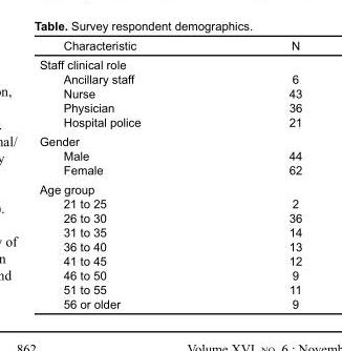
<table><thead><tr><td>Characteristic</td><td>N</td></tr></thead><tbody><tr><td colspan="2">Staff clinical role</td></tr><tr><td>Ancillary staff</td><td>6</td></tr><tr><td>Nurse</td><td>43</td></tr><tr><td>Physician</td><td>36</td></tr><tr><td>Hospital police</td><td>21</td></tr><tr><td colspan="2">Gender</td></tr><tr><td>Male</td><td>44</td></tr><tr><td>Female</td><td>62</td></tr><tr><td colspan="2">Age group</td></tr><tr><td>21 to 25</td><td>2</td></tr><tr><td>26 to 30</td><td>36</td></tr><tr><td>31 to 35</td><td>14</td></tr><tr><td>36 to 40</td><td>13</td></tr><tr><td>41 to 45</td><td>12</td></tr><tr><td>46 to 50</td><td>9</td></tr><tr><td>51 to 55</td><td>11</td></tr><tr><td>56 or older</td><td>9</td></tr></tbody></table>